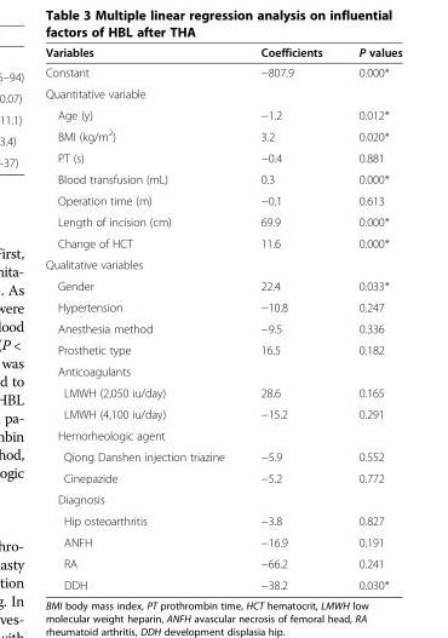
<table><thead><tr><td>Variables</td><td>Coefficients</td><td>P values</td></tr></thead><tbody><tr><td>Constant</td><td>−807.9</td><td>0.000*</td></tr><tr><td colspan="3">Quantitative variable</td></tr><tr><td>Age (y)</td><td>−1.2</td><td>0.012*</td></tr><tr><td>BMI (kg/m<sup>2</sup>)</td><td>3.2</td><td>0.020*</td></tr><tr><td>PT (s)</td><td>−0.4</td><td>0.881</td></tr><tr><td>Blood transfusion (mL)</td><td>0.3</td><td>0.000*</td></tr><tr><td>Operation time (m)</td><td>−0.1</td><td>0.613</td></tr><tr><td>Length of incision (cm)</td><td>69.9</td><td>0.000*</td></tr><tr><td>Change of HCT</td><td>11.6</td><td>0.000*</td></tr><tr><td colspan="3">Qualitative variables</td></tr><tr><td>Gender</td><td>22.4</td><td>0.033*</td></tr><tr><td>Hypertension</td><td>−10.8</td><td>0.247</td></tr><tr><td>Anesthesia method</td><td>−9.5</td><td>0.336</td></tr><tr><td>Prosthetic type</td><td>16.5</td><td>0.182</td></tr><tr><td colspan="3">Anticoagulants</td></tr><tr><td>LMWH (2,050 iu/day)</td><td>28.6</td><td>0.165</td></tr><tr><td>LMWH (4,100 iu/day)</td><td>−15.2</td><td>0.291</td></tr><tr><td colspan="3">Hemorheologic agent</td></tr><tr><td>Qiong Danshen injection triazine</td><td>−5.9</td><td>0.552</td></tr><tr><td>Cinepazide</td><td>−5.2</td><td>0.772</td></tr><tr><td colspan="3">Diagnosis</td></tr><tr><td>Hip osteoarthritis</td><td>−3.8</td><td>0.827</td></tr><tr><td>ANFH</td><td>−16.9</td><td>0.191</td></tr><tr><td>RA</td><td>−66.2</td><td>0.241</td></tr><tr><td>DDH</td><td>−38.2</td><td>0.030*</td></tr></tbody></table>